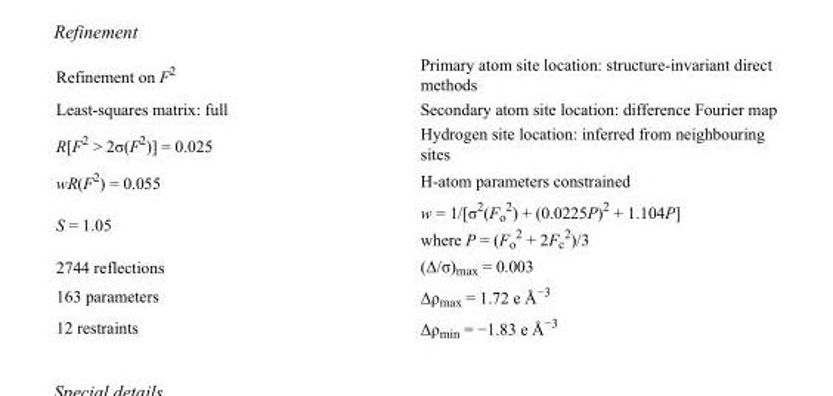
<table><tbody><tr><td>Refinement on F<sup>2</sup></td><td>Primary atom site location: structure-invariant direct methods</td></tr><tr><td>Least-squares matrix: full</td><td>Secondary atom site location: difference Fourier map</td></tr><tr><td>R[F<sup>2</sup> &gt; 2σ(F<sup>2</sup>)] = 0.025</td><td>Hydrogen site location: inferred from neighbouring sites</td></tr><tr><td>wR(F<sup>2</sup>) = 0.055</td><td>H-atom parameters constrained</td></tr><tr><td>S = 1.05</td><td>w = 1/[σ<sup>2</sup>(F<sub>o</sub> <sup>2</sup>) + (0.0225P)<sup>2</sup> + 1.104P] where P = (F<sub>o</sub> <sup>2</sup> + 2F<sub>c</sub> <sup>2</sup>)/3</td></tr><tr><td>2744 reflections</td><td>(Δ/σ)<sub>max</sub> = 0.003</td></tr><tr><td>163 parameters</td><td>Δρ<sub>max</sub> = 1.72 e Å<sup>−3</sup></td></tr><tr><td>12 restraints</td><td>Δρ<sub>min</sub> = −1.83 e Å<sup>−3</sup></td></tr></tbody></table>